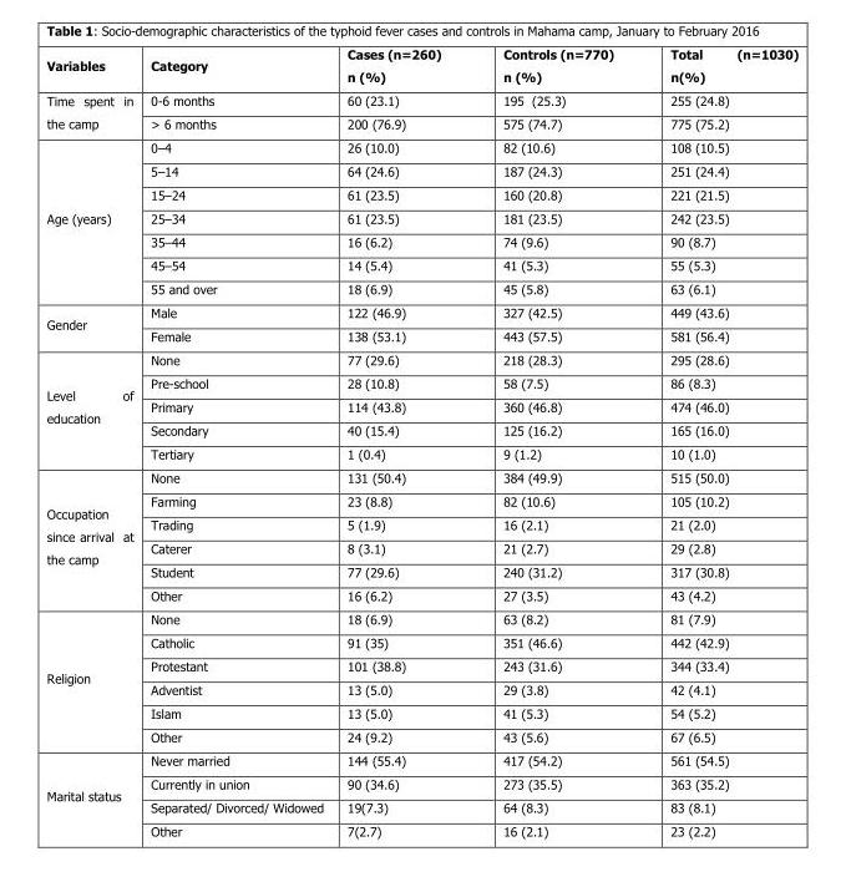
<table><thead><tr><td>Variables</td><td>Category</td><td>Cases (n=260) n (%)</td><td>Controls (n=770) n (%)</td><td>Total (n=1030) n(%)</td></tr></thead><tbody><tr><td rowspan="2">Time spent in the camp</td><td>0-6 months</td><td>60 (23.1)</td><td>195 (25.3)</td><td>255 (24.8)</td></tr><tr><td>&gt; 6 months</td><td>200 (76.9)</td><td>575 (74.7)</td><td>775 (75.2)</td></tr><tr><td rowspan="7">Age (years)</td><td>0–4</td><td>26 (10.0)</td><td>82 (10.6)</td><td>108 (10.5)</td></tr><tr><td>5–14</td><td>64 (24.6)</td><td>187 (24.3)</td><td>251 (24.4)</td></tr><tr><td>15–24</td><td>61 (23.5)</td><td>160 (20.8)</td><td>221 (21.5)</td></tr><tr><td>25–34</td><td>61 (23.5)</td><td>181 (23.5)</td><td>242 (23.5)</td></tr><tr><td>35–44</td><td>16 (6.2)</td><td>74 (9.6)</td><td>90 (8.7)</td></tr><tr><td>45–54</td><td>14 (5.4)</td><td>41 (5.3)</td><td>55 (5.3)</td></tr><tr><td>55 and over</td><td>18 (6.9)</td><td>45 (5.8)</td><td>63 (6.1)</td></tr><tr><td rowspan="2">Gender</td><td>Male</td><td>122 (46.9)</td><td>327 (42.5)</td><td>449 (43.6)</td></tr><tr><td>Female</td><td>138 (53.1)</td><td>443 (57.5)</td><td>581 (56.4)</td></tr><tr><td rowspan="5">Level of education</td><td>None</td><td>77 (29.6)</td><td>218 (28.3)</td><td>295 (28.6)</td></tr><tr><td>Pre-school</td><td>28 (10.8)</td><td>58 (7.5)</td><td>86 (8.3)</td></tr><tr><td>Primary</td><td>114 (43.8)</td><td>360 (46.8)</td><td>474 (46.0)</td></tr><tr><td>Secondary</td><td>40 (15.4)</td><td>125 (16.2)</td><td>165 (16.0)</td></tr><tr><td>Tertiary</td><td>1 (0.4)</td><td>9 (1.2)</td><td>10 (1.0)</td></tr><tr><td rowspan="6">Occupation since arrival at the camp</td><td>None</td><td>131 (50.4)</td><td>384 (49.9)</td><td>515 (50.0)</td></tr><tr><td>Farming</td><td>23 (8.8)</td><td>82 (10.6)</td><td>105 (10.2)</td></tr><tr><td>Trading</td><td>5 (1.9)</td><td>16 (2.1)</td><td>21 (2.0)</td></tr><tr><td>Caterer</td><td>8 (3.1)</td><td>21 (2.7)</td><td>29 (2.8)</td></tr><tr><td>Student</td><td>77 (29.6)</td><td>240 (31.2)</td><td>317 (30.8)</td></tr><tr><td>Other</td><td>16 (6.2)</td><td>27 (3.5)</td><td>43 (4.2)</td></tr><tr><td rowspan="6">Religion</td><td>None</td><td>18 (6.9)</td><td>63 (8.2)</td><td>81 (7.9)</td></tr><tr><td>Catholic</td><td>91 (35)</td><td>351 (46.6)</td><td>442 (42.9)</td></tr><tr><td>Protestant</td><td>101 (38.8)</td><td>243 (31.6)</td><td>344 (33.4)</td></tr><tr><td>Adventist</td><td>13 (5.0)</td><td>29 (3.8)</td><td>42 (4.1)</td></tr><tr><td>Islam</td><td>13 (5.0)</td><td>41 (5.3)</td><td>54 (5.2)</td></tr><tr><td>Other</td><td>24 (9.2)</td><td>43 (5.6)</td><td>67 (6.5)</td></tr><tr><td rowspan="4">Marital status</td><td>Never married</td><td>144 (55.4)</td><td>417 (54.2)</td><td>561 (54.5)</td></tr><tr><td>Currently in union</td><td>90 (34.6)</td><td>273 (35.5)</td><td>363 (35.2)</td></tr><tr><td>Separated/ Divorced/ Widowed</td><td>19(7.3)</td><td>64 (8.3)</td><td>83 (8.1)</td></tr><tr><td>Other</td><td>7(2.7)</td><td>16 (2.1)</td><td>23 (2.2)</td></tr></tbody></table>